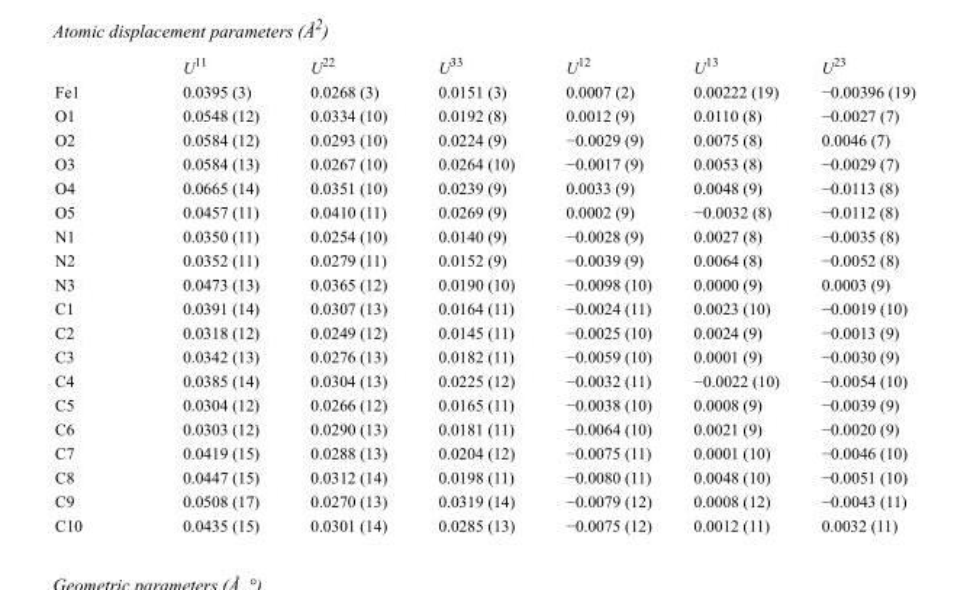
<table><thead><tr><td></td><td>U<sup>11</sup></td><td>U<sup>22</sup></td><td>U<sup>33</sup></td><td>U<sup>12</sup></td><td>U<sup>13</sup></td><td>U<sup>23</sup></td></tr></thead><tbody><tr><td>Fe1</td><td>0.0395 (3)</td><td>0.0268 (3)</td><td>0.0151 (3)</td><td>0.0007 (2)</td><td>0.00222 (19)</td><td>−0.00396 (19)</td></tr><tr><td>O1</td><td>0.0548 (12)</td><td>0.0334 (10)</td><td>0.0192 (8)</td><td>0.0012 (9)</td><td>0.0110 (8)</td><td>−0.0027 (7)</td></tr><tr><td>O2</td><td>0.0584 (12)</td><td>0.0293 (10)</td><td>0.0224 (9)</td><td>−0.0029 (9)</td><td>0.0075 (8)</td><td>0.0046 (7)</td></tr><tr><td>O3</td><td>0.0584 (13)</td><td>0.0267 (10)</td><td>0.0264 (10)</td><td>−0.0017 (9)</td><td>0.0053 (8)</td><td>−0.0029 (7)</td></tr><tr><td>O4</td><td>0.0665 (14)</td><td>0.0351 (10)</td><td>0.0239 (9)</td><td>0.0033 (9)</td><td>0.0048 (9)</td><td>−0.0113 (8)</td></tr><tr><td>O5</td><td>0.0457 (11)</td><td>0.0410 (11)</td><td>0.0269 (9)</td><td>0.0002 (9)</td><td>−0.0032 (8)</td><td>−0.0112 (8)</td></tr><tr><td>N1</td><td>0.0350 (11)</td><td>0.0254 (10)</td><td>0.0140 (9)</td><td>−0.0028 (9)</td><td>0.0027 (8)</td><td>−0.0035 (8)</td></tr><tr><td>N2</td><td>0.0352 (11)</td><td>0.0279 (11)</td><td>0.0152 (9)</td><td>−0.0039 (9)</td><td>0.0064 (8)</td><td>−0.0052 (8)</td></tr><tr><td>N3</td><td>0.0473 (13)</td><td>0.0365 (12)</td><td>0.0190 (10)</td><td>−0.0098 (10)</td><td>0.0000 (9)</td><td>0.0003 (9)</td></tr><tr><td>C1</td><td>0.0391 (14)</td><td>0.0307 (13)</td><td>0.0164 (11)</td><td>−0.0024 (11)</td><td>0.0023 (10)</td><td>−0.0019 (10)</td></tr><tr><td>C2</td><td>0.0318 (12)</td><td>0.0249 (12)</td><td>0.0145 (11)</td><td>−0.0025 (10)</td><td>0.0024 (9)</td><td>−0.0013 (9)</td></tr><tr><td>C3</td><td>0.0342 (13)</td><td>0.0276 (13)</td><td>0.0182 (11)</td><td>−0.0059 (10)</td><td>0.0001 (9)</td><td>−0.0030 (9)</td></tr><tr><td>C4</td><td>0.0385 (14)</td><td>0.0304 (13)</td><td>0.0225 (12)</td><td>−0.0032 (11)</td><td>−0.0022 (10)</td><td>−0.0054 (10)</td></tr><tr><td>C5</td><td>0.0304 (12)</td><td>0.0266 (12)</td><td>0.0165 (11)</td><td>−0.0038 (10)</td><td>0.0008 (9)</td><td>−0.0039 (9)</td></tr><tr><td>C6</td><td>0.0303 (12)</td><td>0.0290 (13)</td><td>0.0181 (11)</td><td>−0.0064 (10)</td><td>0.0021 (9)</td><td>−0.0020 (9)</td></tr><tr><td>C7</td><td>0.0419 (15)</td><td>0.0288 (13)</td><td>0.0204 (12)</td><td>−0.0075 (11)</td><td>0.0001 (10)</td><td>−0.0046 (10)</td></tr><tr><td>C8</td><td>0.0447 (15)</td><td>0.0312 (14)</td><td>0.0198 (11)</td><td>−0.0080 (11)</td><td>0.0048 (10)</td><td>−0.0051 (10)</td></tr><tr><td>C9</td><td>0.0508 (17)</td><td>0.0270 (13)</td><td>0.0319 (14)</td><td>−0.0079 (12)</td><td>0.0008 (12)</td><td>−0.0043 (11)</td></tr><tr><td>C10</td><td>0.0435 (15)</td><td>0.0301 (14)</td><td>0.0285 (13)</td><td>−0.0075 (12)</td><td>0.0012 (11)</td><td>0.0032 (11)</td></tr></tbody></table>